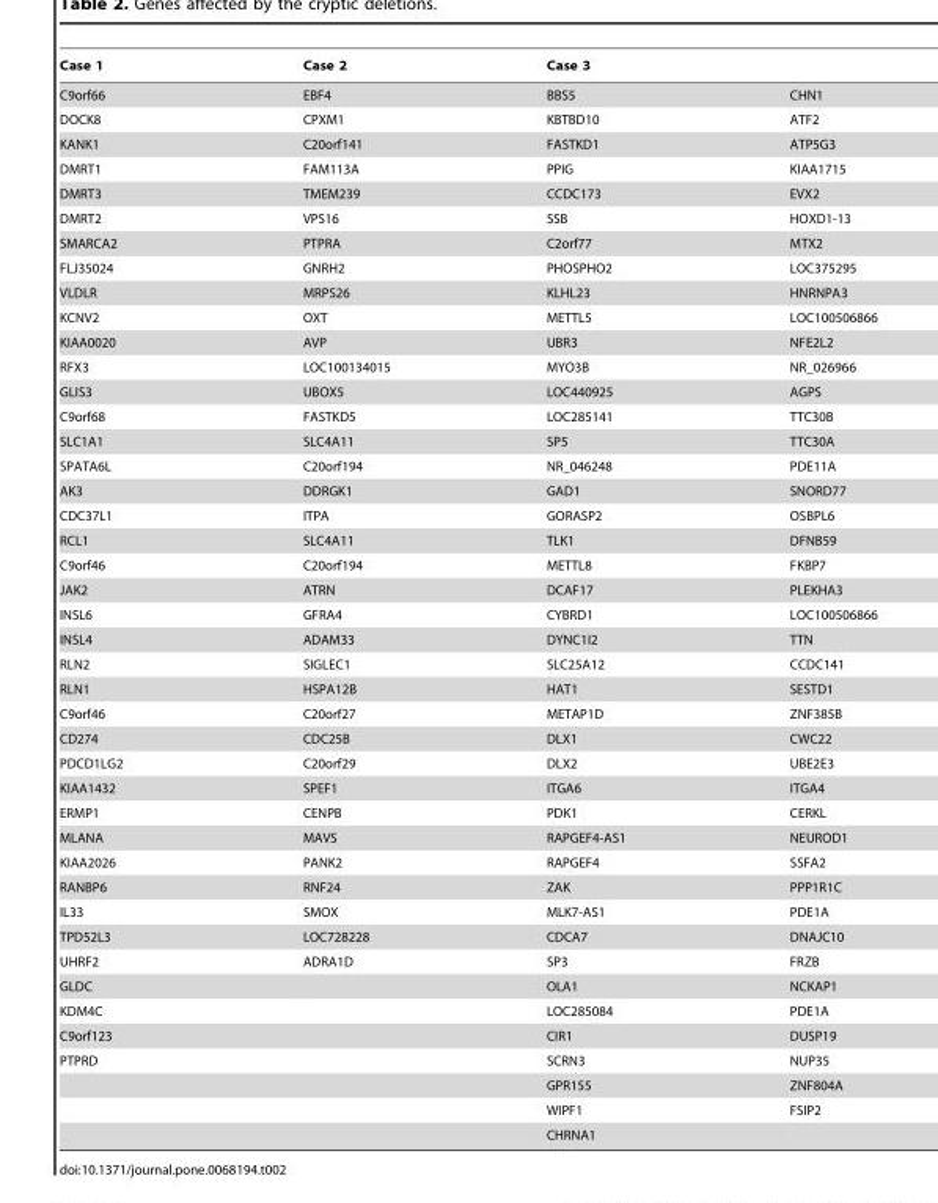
<table><thead><tr><td rowspan="2">Case 1 C9orf66</td><td rowspan="2">Case 2 EBF4</td><td colspan="2">Case 3</td></tr><tr><td>BBS5</td><td>CHN1</td></tr></thead><tbody><tr><td>DOCK8</td><td>CPXM1</td><td>KBTBD10</td><td>ATF2</td></tr><tr><td>KANK1</td><td>C20orf141</td><td>FASTKD1</td><td>ATP5G3</td></tr><tr><td>DMRT1</td><td>FAM113A</td><td>PPIG</td><td>KIAA1715</td></tr><tr><td>DMRT3</td><td>TMEM239</td><td>CCDC173</td><td>EVX2</td></tr><tr><td>DMRT2</td><td>VPS16</td><td>SSB</td><td>HOXD1-13</td></tr><tr><td>SMARCA2</td><td>PTPRA</td><td>C2orf77</td><td>MTX2</td></tr><tr><td>FLJ35024</td><td>GNRH2</td><td>PHOSPHO2</td><td>LOC375295</td></tr><tr><td>VLDLR</td><td>MRPS26</td><td>KLHL23</td><td>HNRNPA3</td></tr><tr><td>KCNV2</td><td>OXT</td><td>METTL5</td><td>LOC100506866</td></tr><tr><td>KIAA0020</td><td>AVP</td><td>UBR3</td><td>NFE2L2</td></tr><tr><td>RFX3</td><td>LOC100134015</td><td>MYO3B</td><td>NR_026966</td></tr><tr><td>GLIS3</td><td>UBOX5</td><td>LOC440925</td><td>AGPS</td></tr><tr><td>C9orf68</td><td>FASTKD5</td><td>LOC285141</td><td>TTC30B</td></tr><tr><td>SLC1A1</td><td>SLC4A11</td><td>SP5</td><td>TTC30A</td></tr><tr><td>SPATA6L</td><td>C20orf194</td><td>NR_046248</td><td>PDE11A</td></tr><tr><td>AK3</td><td>DDRGK1</td><td>GAD1</td><td>SNORD77</td></tr><tr><td>CDC37L1</td><td>ITPA</td><td>GORASP2</td><td>OSBPL6</td></tr><tr><td>RCL1</td><td>SLC4A11</td><td>TLK1</td><td>DFNB59</td></tr><tr><td>C9orf46</td><td>C20orf194</td><td>METTL8</td><td>FKBP7</td></tr><tr><td>JAK2</td><td>ATRN</td><td>DCAF17</td><td>PLEKHA3</td></tr><tr><td>INSL6</td><td>GFRA4</td><td>CYBRD1</td><td>LOC100506866</td></tr><tr><td>INSL4</td><td>ADAM33</td><td>DYNC1I2</td><td>TTN</td></tr><tr><td>RLN2</td><td>SIGLEC1</td><td>SLC25A12</td><td>CCDC141</td></tr><tr><td>RLN1</td><td>HSPA12B</td><td>HAT1</td><td>SESTD1</td></tr><tr><td>C9orf46</td><td>C20orf27</td><td>METAP1D</td><td>ZNF385B</td></tr><tr><td>CD274</td><td>CDC25B</td><td>DLX1</td><td>CWC22</td></tr><tr><td>PDCD1LG2</td><td>C20orf29</td><td>DLX2</td><td>UBE2E3</td></tr><tr><td>KIAA1432</td><td>SPEF1</td><td>ITGA6</td><td>ITGA4</td></tr><tr><td>ERMP1</td><td>CENPB</td><td>PDK1</td><td>CERKL</td></tr><tr><td>MLANA</td><td>MAVS</td><td>RAPGEF4-AS1</td><td>NEUROD1</td></tr><tr><td>KIAA2026</td><td>PANK2</td><td>RAPGEF4</td><td>SSFA2</td></tr><tr><td>RANBP6</td><td>RNF24</td><td>ZAK</td><td>PPP1R1C</td></tr><tr><td>IL33</td><td>SMOX</td><td>MLK7-AS1</td><td>PDE1A</td></tr><tr><td>TPD52L3</td><td>LOC728228</td><td>CDCA7</td><td>DNAJC10</td></tr><tr><td>UHRF2</td><td>ADRA1D</td><td>SP3</td><td>FRZB</td></tr><tr><td>GLDC</td><td></td><td>OLA1</td><td>NCKAP1</td></tr><tr><td>KDM4C</td><td></td><td>LOC285084</td><td>PDE1A</td></tr><tr><td>C9orf123</td><td></td><td>CIR1</td><td>DUSP19</td></tr><tr><td rowspan="4">PTPRD</td><td></td><td>SCRN3</td><td>NUP35</td></tr><tr><td></td><td>GPR155</td><td>ZNF804A</td></tr><tr><td></td><td>WIPF1</td><td>FSIP2</td></tr><tr><td></td><td>CHRNA1</td><td></td></tr></tbody></table>